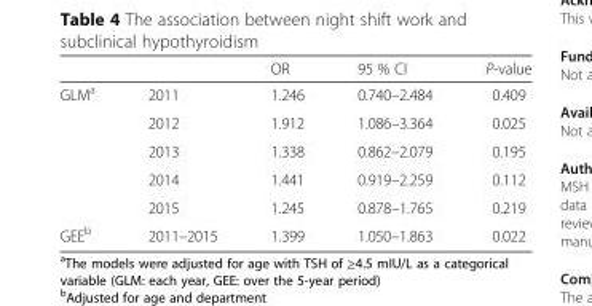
<table><thead><tr><td></td><td></td><td>OR</td><td>95 % CI</td><td>P-value</td></tr></thead><tbody><tr><td rowspan="5">GLM<sup>a</sup></td><td>2011</td><td>1.246</td><td>0.740–2.484</td><td>0.409</td></tr><tr><td>2012</td><td>1.912</td><td>1.086–3.364</td><td>0.025</td></tr><tr><td>2013</td><td>1.338</td><td>0.862–2.079</td><td>0.195</td></tr><tr><td>2014</td><td>1.441</td><td>0.919–2.259</td><td>0.112</td></tr><tr><td>2015</td><td>1.245</td><td>0.878–1.765</td><td>0.219</td></tr><tr><td>GEE<sup>b</sup></td><td>2011–2015</td><td>1.399</td><td>1.050–1.863</td><td>0.022</td></tr></tbody></table>